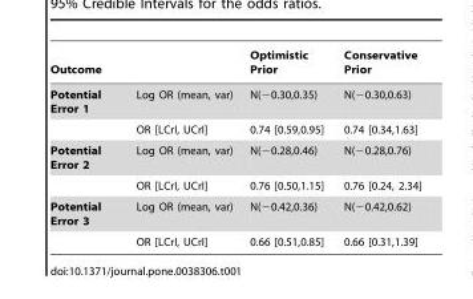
<table><thead><tr><td colspan="2">Outcome</td><td rowspan="2">Optimistic Prior N(−0.30,0.35)</td><td rowspan="2">Conservative Prior N(−0.30,0.63)</td></tr><tr><td>Potential Error 1</td><td>Log OR (mean, var)</td></tr></thead><tbody><tr><td></td><td>OR [LCrI, UCrI]</td><td>0.74 [0.59,0.95]</td><td>0.74 [0.34,1.63]</td></tr><tr><td rowspan="2">Potential Error 2</td><td>Log OR (mean, var)</td><td>N(−0.28,0.46)</td><td>N(−0.28,0.76)</td></tr><tr><td>OR [LCrI, UCrI]</td><td>0.76 [0.50,1.15]</td><td>0.76 [0.24, 2.34]</td></tr><tr><td rowspan="2">Potential Error 3</td><td>Log OR (mean, var)</td><td>N(−0.42,0.36)</td><td>N(−0.42,0.62)</td></tr><tr><td>OR [LCrI, UCrI]</td><td>0.66 [0.51,0.85]</td><td>0.66 [0.31,1.39]</td></tr></tbody></table>